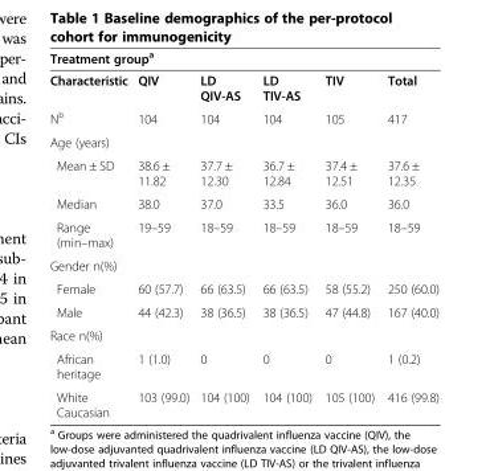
<table><thead><tr><td colspan="6">Treatment group<sup>a</sup></td></tr><tr><td>Characteristic</td><td>QIV</td><td>LD QIV-AS</td><td>LD TIV-AS</td><td>TIV</td><td>Total</td></tr></thead><tbody><tr><td>N<sup>b</sup></td><td>104</td><td>104</td><td>104</td><td>105</td><td>417</td></tr><tr><td colspan="6">Age (years)</td></tr><tr><td>Mean ± SD</td><td>38.6 ± 11.82</td><td>37.7 ± 12.30</td><td>36.7 ± 12.84</td><td>37.4 ± 12.51</td><td>37.6 ± 12.35</td></tr><tr><td>Median</td><td>38.0</td><td>37.0</td><td>33.5</td><td>36.0</td><td>36.0</td></tr><tr><td>Range (min–max)</td><td>19–59</td><td>18–59</td><td>18–59</td><td>18–59</td><td>18–59</td></tr><tr><td colspan="6">Gender n(%)</td></tr><tr><td>Female</td><td>60 (57.7)</td><td>66 (63.5)</td><td>66 (63.5)</td><td>58 (55.2)</td><td>250 (60.0)</td></tr><tr><td>Male</td><td>44 (42.3)</td><td>38 (36.5)</td><td>38 (36.5)</td><td>47 (44.8)</td><td>167 (40.0)</td></tr><tr><td colspan="6">Race n(%)</td></tr><tr><td>African heritage</td><td>1 (1.0)</td><td>0</td><td>0</td><td>0</td><td>1 (0.2)</td></tr><tr><td>White Caucasian</td><td>103 (99.0)</td><td>104 (100)</td><td>104 (100)</td><td>105 (100)</td><td>416 (99.8)</td></tr></tbody></table>